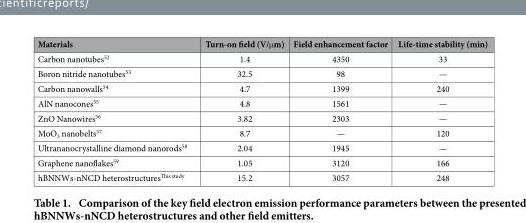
<table><thead><tr><td>Materials</td><td>Turn-on field (V/μ m)</td><td>Field enhancement factor</td><td>Life-time stability (min)</td></tr></thead><tbody><tr><td>Carbon nanotubes<sup>52</sup></td><td>1.4</td><td>4350</td><td>33</td></tr><tr><td>Boron nitride nanotubes<sup>53</sup></td><td>32.5</td><td>98</td><td>—</td></tr><tr><td>Carbon nanowalls<sup>54</sup></td><td>4.7</td><td>1399</td><td>240</td></tr><tr><td>AlN nanocones<sup>55</sup></td><td>4.8</td><td>1561</td><td>—</td></tr><tr><td>ZnO Nanowires<sup>56</sup></td><td>3.82</td><td>2303</td><td>—</td></tr><tr><td>MoO<sub>3</sub> nanobelts<sup>57</sup></td><td>8.7</td><td>—</td><td>120</td></tr><tr><td>Ultrananocrystalline diamond nanorods<sup>58</sup></td><td>2.04</td><td>1945</td><td>—</td></tr><tr><td>Graphene nanoflakes<sup>59</sup></td><td>1.05</td><td>3120</td><td>166</td></tr><tr><td>hBNNWs-nNCD heterostructures<sup>This study</sup></td><td>15.2</td><td>3057</td><td>248</td></tr></tbody></table>